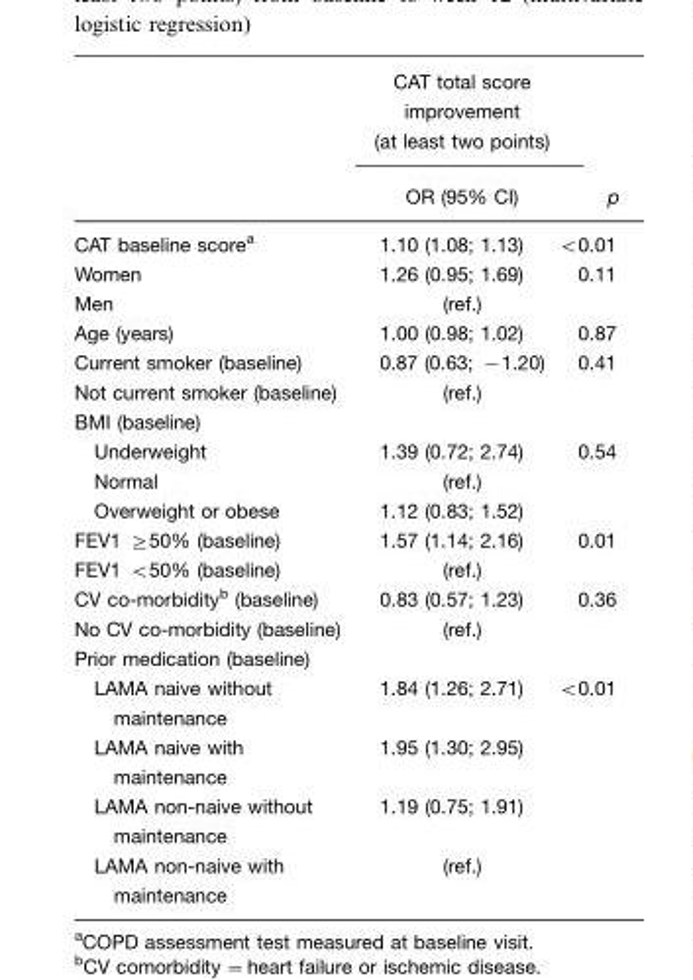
<table><thead><tr><td rowspan="2"></td><td rowspan="2">CAT total score improvement (at least two points) OR (95% CI)</td><td rowspan="2">p</td></tr><tr></tr></thead><tbody><tr><td>CAT baseline score<sup>a</sup></td><td>1.10 (1.08; 1.13)</td><td>&lt;0.01</td></tr><tr><td>Women</td><td>1.26 (0.95; 1.69)</td><td>0.11</td></tr><tr><td>Men</td><td>(ref.)</td><td></td></tr><tr><td>Age (years)</td><td>1.00 (0.98; 1.02)</td><td>0.87</td></tr><tr><td>Current smoker (baseline)</td><td>0.87 (0.63; −1.20)</td><td>0.41</td></tr><tr><td>Not current smoker (baseline)</td><td>(ref.)</td><td></td></tr><tr><td colspan="3">BMI (baseline)</td></tr><tr><td>Underweight</td><td>1.39 (0.72; 2.74)</td><td>0.54</td></tr><tr><td>Normal</td><td>(ref.)</td><td></td></tr><tr><td>Overweight or obese</td><td>1.12 (0.83; 1.52)</td><td></td></tr><tr><td>FEV1 ≥50% (baseline)</td><td>1.57 (1.14; 2.16)</td><td>0.01</td></tr><tr><td>FEV1 &lt;50% (baseline)</td><td>(ref.)</td><td></td></tr><tr><td>CV co-morbidity<sup>b</sup> (baseline)</td><td>0.83 (0.57; 1.23)</td><td>0.36</td></tr><tr><td>No CV co-morbidity (baseline)</td><td>(ref.)</td><td></td></tr><tr><td colspan="3">Prior medication (baseline)</td></tr><tr><td>LAMA naive without maintenance</td><td>1.84 (1.26; 2.71)</td><td>&lt;0.01</td></tr><tr><td>LAMA naive with maintenance</td><td>1.95 (1.30; 2.95)</td><td></td></tr><tr><td>LAMA non-naive without maintenance</td><td>1.19 (0.75; 1.91)</td><td></td></tr><tr><td>LAMA non-naive with maintenance</td><td>(ref.)</td><td></td></tr></tbody></table>